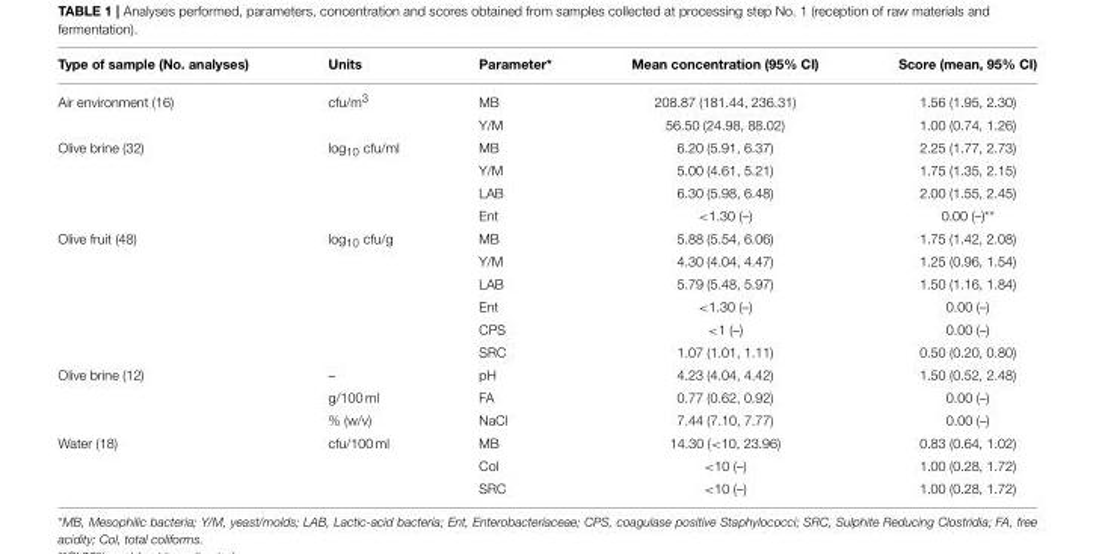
<table><thead><tr><td>Type of sample (No. analyses)</td><td>Units</td><td>Parameter*</td><td>Mean concentration (95% CI)</td><td>Score (mean, 95% CI)</td></tr></thead><tbody><tr><td rowspan="2">Air environment (16)</td><td>cfu/m<sup>3</sup></td><td>MB</td><td>208.87 (181.44, 236.31)</td><td>1.56 (1.95, 2.30)</td></tr><tr><td></td><td>Y/M</td><td>56.50 (24.98, 88.02)</td><td>1.00 (0.74, 1.26)</td></tr><tr><td rowspan="4">Olive brine (32)</td><td>log<sub>10</sub> cfu/ml</td><td>MB</td><td>6.20 (5.91, 6.37)</td><td>2.25 (1.77, 2.73)</td></tr><tr><td></td><td>Y/M</td><td>5.00 (4.61, 5.21)</td><td>1.75 (1.35, 2.15)</td></tr><tr><td></td><td>LAB</td><td>6.30 (5.98, 6.48)</td><td>2.00 (1.55, 2.45)</td></tr><tr><td></td><td>Ent</td><td>&lt;1.30 (–)</td><td>0.00 (–)**</td></tr><tr><td rowspan="6">Olive fruit (48)</td><td>log<sub>10</sub> cfu/g</td><td>MB</td><td>5.88 (5.54, 6.06)</td><td>1.75 (1.42, 2.08)</td></tr><tr><td></td><td>Y/M</td><td>4.30 (4.04, 4.47)</td><td>1.25 (0.96, 1.54)</td></tr><tr><td></td><td>LAB</td><td>5.79 (5.48, 5.97)</td><td>1.50 (1.16, 1.84)</td></tr><tr><td></td><td>Ent</td><td>&lt;1.30 (–)</td><td>0.00 (–)</td></tr><tr><td></td><td>CPS</td><td>&lt;1 (–)</td><td>0.00 (–)</td></tr><tr><td></td><td>SRC</td><td>1.07 (1.01, 1.11)</td><td>0.50 (0.20, 0.80)</td></tr><tr><td rowspan="3">Olive brine (12)</td><td>–</td><td>pH</td><td>4.23 (4.04, 4.42)</td><td>1.50 (0.52, 2.48)</td></tr><tr><td>g/100 ml</td><td>FA</td><td>0.77 (0.62, 0.92)</td><td>0.00 (–)</td></tr><tr><td>% (w/v)</td><td>NaCl</td><td>7.44 (7.10, 7.77)</td><td>0.00 (–)</td></tr><tr><td rowspan="3">Water (18)</td><td>cfu/100 ml</td><td>MB</td><td>14.30 (&lt;10, 23.96)</td><td>0.83 (0.64, 1.02)</td></tr><tr><td></td><td>Col</td><td>&lt;10 (–)</td><td>1.00 (0.28, 1.72)</td></tr><tr><td></td><td>SRC</td><td>&lt;10 (–)</td><td>1.00 (0.28, 1.72)</td></tr></tbody></table>